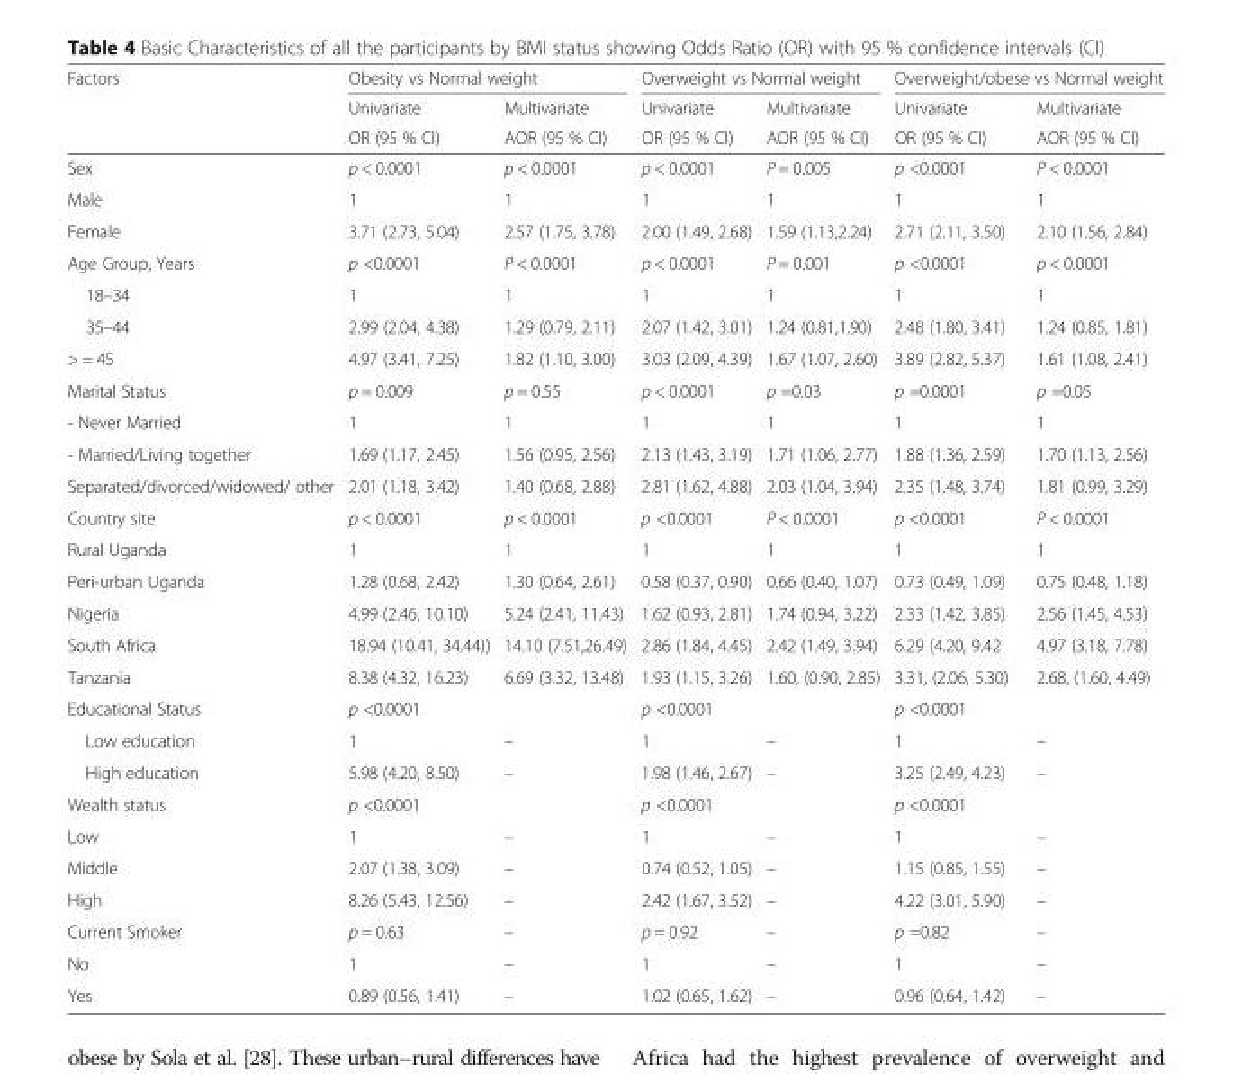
<table><thead><tr><td rowspan="3">Factors</td><td colspan="2">Obesity vs Normal weight</td><td colspan="2">Overweight vs Normal weight</td><td colspan="2">Overweight/obese vs Normal weight</td></tr><tr><td rowspan="2">Univariate OR (95 % CI)</td><td rowspan="2">Multivariate AOR (95 % CI)</td><td rowspan="2">Univariate OR (95 % CI)</td><td rowspan="2">Multivariate AOR (95 % CI)</td><td rowspan="2">Univariate OR (95 % CI)</td><td rowspan="2">Multivariate AOR (95 % CI)</td></tr><tr></tr></thead><tbody><tr><td>Sex</td><td>p &lt; 0.0001</td><td>p &lt; 0.0001</td><td>p &lt; 0.0001</td><td>P = 0.005</td><td>p &lt;0.0001</td><td>P &lt; 0.0001</td></tr><tr><td>Male</td><td>1</td><td>1</td><td>1</td><td>1</td><td>1</td><td>1</td></tr><tr><td>Female</td><td>3.71 (2.73, 5.04)</td><td>2.57 (1.75, 3.78)</td><td>2.00 (1.49, 2.68)</td><td>1.59 (1.13,2.24)</td><td>2.71 (2.11, 3.50)</td><td>2.10 (1.56, 2.84)</td></tr><tr><td>Age Group, Years</td><td>p &lt;0.0001</td><td>P &lt; 0.0001</td><td>p &lt; 0.0001</td><td>P = 0.001</td><td>p &lt;0.0001</td><td>p &lt; 0.0001</td></tr><tr><td>18–34</td><td>1</td><td>1</td><td>1</td><td>1</td><td>1</td><td>1</td></tr><tr><td>35–44</td><td>2.99 (2.04, 4.38)</td><td>1.29 (0.79, 2.11)</td><td>2.07 (1.42, 3.01)</td><td>1.24 (0.81,1.90)</td><td>2.48 (1.80, 3.41)</td><td>1.24 (0.85, 1.81)</td></tr><tr><td>&gt; = 45</td><td>4.97 (3.41, 7.25)</td><td>1.82 (1.10, 3.00)</td><td>3.03 (2.09, 4.39)</td><td>1.67 (1.07, 2.60)</td><td>3.89 (2.82, 5.37)</td><td>1.61 (1.08, 2.41)</td></tr><tr><td>Marital Status</td><td>p = 0.009</td><td>p = 0.55</td><td>p &lt; 0.0001</td><td>p =0.03</td><td>p =0.0001</td><td>p =0.05</td></tr><tr><td>- Never Married</td><td>1</td><td>1</td><td>1</td><td>1</td><td>1</td><td>1</td></tr><tr><td>- Married/Living together</td><td>1.69 (1.17, 2.45)</td><td>1.56 (0.95, 2.56)</td><td>2.13 (1.43, 3.19)</td><td>1.71 (1.06, 2.77)</td><td>1.88 (1.36, 2.59)</td><td>1.70 (1.13, 2.56)</td></tr><tr><td>Separated/divorced/widowed/ other</td><td>2.01 (1.18, 3.42)</td><td>1.40 (0.68, 2.88)</td><td>2.81 (1.62, 4.88)</td><td>2.03 (1.04, 3.94)</td><td>2.35 (1.48, 3.74)</td><td>1.81 (0.99, 3.29)</td></tr><tr><td>Country site</td><td>p &lt; 0.0001</td><td>p &lt; 0.0001</td><td>p &lt;0.0001</td><td>P &lt; 0.0001</td><td>p &lt;0.0001</td><td>P &lt; 0.0001</td></tr><tr><td>Rural Uganda</td><td>1</td><td>1</td><td>1</td><td>1</td><td>1</td><td>1</td></tr><tr><td>Peri-urban Uganda</td><td>1.28 (0.68, 2.42)</td><td>1.30 (0.64, 2.61)</td><td>0.58 (0.37, 0.90)</td><td>0.66 (0.40, 1.07)</td><td>0.73 (0.49, 1.09)</td><td>0.75 (0.48, 1.18)</td></tr><tr><td>Nigeria</td><td>4.99 (2.46, 10.10)</td><td>5.24 (2.41, 11.43)</td><td>1.62 (0.93, 2.81)</td><td>1.74 (0.94, 3.22)</td><td>2.33 (1.42, 3.85)</td><td>2.56 (1.45, 4.53)</td></tr><tr><td>South Africa</td><td>18.94 (10.41, 34.44))</td><td>14.10 (7.51,26.49)</td><td>2.86 (1.84, 4.45)</td><td>2.42 (1.49, 3.94)</td><td>6.29 (4.20, 9.42</td><td>4.97 (3.18, 7.78)</td></tr><tr><td>Tanzania</td><td>8.38 (4.32, 16.23)</td><td>6.69 (3.32, 13.48)</td><td>1.93 (1.15, 3.26)</td><td>1.60, (0.90, 2.85)</td><td>3.31, (2.06, 5.30)</td><td>2.68, (1.60, 4.49)</td></tr><tr><td>Educational Status</td><td>p &lt;0.0001</td><td></td><td>p &lt;0.0001</td><td></td><td>p &lt;0.0001</td><td></td></tr><tr><td>Low education</td><td>1</td><td>–</td><td>1</td><td>–</td><td>1</td><td>–</td></tr><tr><td>High education</td><td>5.98 (4.20, 8.50)</td><td>–</td><td>1.98 (1.46, 2.67)</td><td>–</td><td>3.25 (2.49, 4.23)</td><td>–</td></tr><tr><td>Wealth status</td><td>p &lt;0.0001</td><td></td><td>p &lt;0.0001</td><td></td><td>p &lt;0.0001</td><td></td></tr><tr><td>Low</td><td>1</td><td>–</td><td>1</td><td>–</td><td>1</td><td>–</td></tr><tr><td>Middle</td><td>2.07 (1.38, 3.09)</td><td>–</td><td>0.74 (0.52, 1.05)</td><td>–</td><td>1.15 (0.85, 1.55)</td><td>–</td></tr><tr><td>High</td><td>8.26 (5.43, 12.56)</td><td>–</td><td>2.42 (1.67, 3.52)</td><td>–</td><td>4.22 (3.01, 5.90)</td><td>–</td></tr><tr><td>Current Smoker</td><td>p = 0.63</td><td>–</td><td>p = 0.92</td><td>–</td><td>p =0.82</td><td>–</td></tr><tr><td>No</td><td>1</td><td>–</td><td>1</td><td>–</td><td>1</td><td>–</td></tr><tr><td>Yes</td><td>0.89 (0.56, 1.41)</td><td>–</td><td>1.02 (0.65, 1.62)</td><td>–</td><td>0.96 (0.64, 1.42)</td><td>–</td></tr></tbody></table>